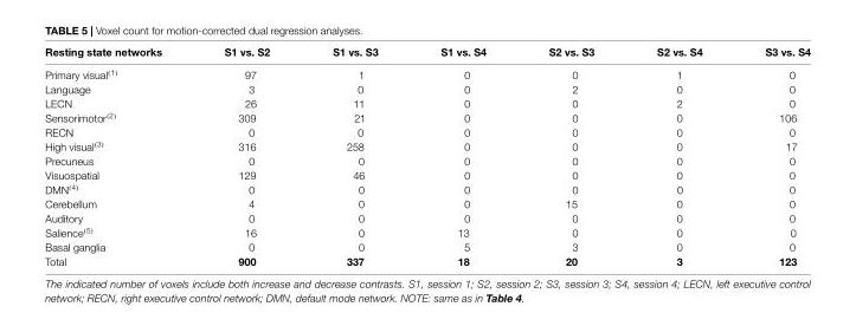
<table><thead><tr><td>Resting state networks</td><td>S1 vs. S2</td><td>S1 vs. S3</td><td>S1 vs. S4</td><td>S2 vs. S3</td><td>S2 vs. S4</td><td>S3 vs. S4</td></tr></thead><tbody><tr><td>Primary visual<sup>(1)</sup></td><td>97</td><td>1</td><td>0</td><td>0</td><td>1</td><td>0</td></tr><tr><td>Language</td><td>3</td><td>0</td><td>0</td><td>2</td><td>0</td><td>0</td></tr><tr><td>LECN</td><td>26</td><td>11</td><td>0</td><td>0</td><td>2</td><td>0</td></tr><tr><td>Sensorimotor<sup>(2)</sup></td><td>309</td><td>21</td><td>0</td><td>0</td><td>0</td><td>106</td></tr><tr><td>RECN</td><td>0</td><td>0</td><td>0</td><td>0</td><td>0</td><td>0</td></tr><tr><td>High visual<sup>(3)</sup></td><td>316</td><td>258</td><td>0</td><td>0</td><td>0</td><td>17</td></tr><tr><td>Precuneus</td><td>0</td><td>0</td><td>0</td><td>0</td><td>0</td><td>0</td></tr><tr><td>Visuospatial</td><td>129</td><td>46</td><td>0</td><td>0</td><td>0</td><td>0</td></tr><tr><td>DMN<sup>(4)</sup></td><td>0</td><td>0</td><td>0</td><td>0</td><td>0</td><td>0</td></tr><tr><td>Cerebellum</td><td>4</td><td>0</td><td>0</td><td>15</td><td>0</td><td>0</td></tr><tr><td>Auditory</td><td>0</td><td>0</td><td>0</td><td>0</td><td>0</td><td>0</td></tr><tr><td>Salience<sup>(5)</sup></td><td>16</td><td>0</td><td>13</td><td>0</td><td>0</td><td>0</td></tr><tr><td>Basal ganglia</td><td>0</td><td>0</td><td>5</td><td>3</td><td>0</td><td>0</td></tr><tr><td>Total</td><td>900</td><td>337</td><td>18</td><td>20</td><td>3</td><td>123</td></tr></tbody></table>